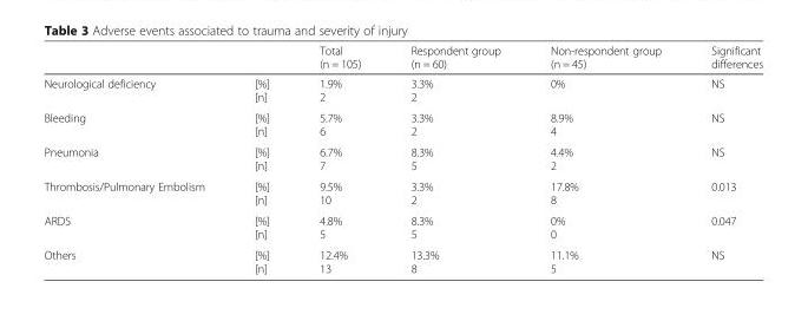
<table><thead><tr><td></td><td></td><td>Total (n = 105)</td><td>Respondent group (n = 60)</td><td>Non-respondent group (n = 45)</td><td>Significant differences</td></tr></thead><tbody><tr><td>Neurological deficiency</td><td>[%] [n]</td><td>1.9% 2</td><td>3.3% 2</td><td>0%</td><td>NS</td></tr><tr><td>Bleeding</td><td>[%] [n]</td><td>5.7% 6</td><td>3.3% 2</td><td>8.9% 4</td><td>NS</td></tr><tr><td>Pneumonia</td><td>[%] [n]</td><td>6.7% 7</td><td>8.3% 5</td><td>4.4% 2</td><td>NS</td></tr><tr><td>Thrombosis/Pulmonary Embolism</td><td>[%] [n]</td><td>9.5% 10</td><td>3.3% 2</td><td>17.8% 8</td><td>0.013</td></tr><tr><td>ARDS</td><td>[%] [n]</td><td>4.8% 5</td><td>8.3% 5</td><td>0% 0</td><td>0.047</td></tr><tr><td>Others</td><td>[%] [n]</td><td>12.4% 13</td><td>13.3% 8</td><td>11.1% 5</td><td>NS</td></tr></tbody></table>